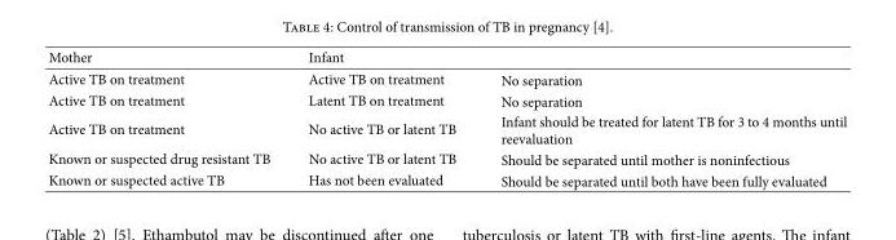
<table><thead><tr><td>Mother</td><td>Infant</td><td></td></tr></thead><tbody><tr><td>Active TB on treatment</td><td>Active TB on treatment</td><td>No separation</td></tr><tr><td>Active TB on treatment</td><td>Latent TB on treatment</td><td>No separation</td></tr><tr><td>Active TB on treatment</td><td>No active TB or latent TB</td><td>Infant should be treated for latent TB for 3 to 4 months until reevaluation</td></tr><tr><td>Known or suspected drug resistant TB</td><td>No active TB or latent TB</td><td>Should be separated until mother is noninfectious</td></tr><tr><td>Known or suspected active TB</td><td>Has not been evaluated</td><td>Should be separated until both have been fully evaluated</td></tr></tbody></table>